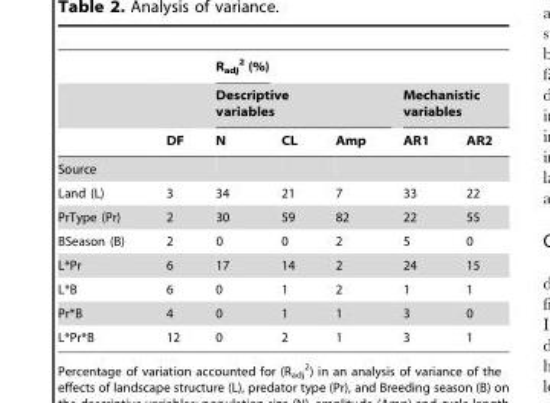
<table><thead><tr><td rowspan="3"></td><td rowspan="3">DF</td><td>R<sub>adj</sub> <sup>2</sup> (%)</td><td></td><td></td><td></td><td></td></tr><tr><td colspan="3">Descriptive variables</td><td colspan="2">Mechanistic variables</td></tr><tr><td>N</td><td>CL</td><td>Amp</td><td>AR1</td><td>AR2</td></tr></thead><tbody><tr><td colspan="7">Source</td></tr><tr><td>Land (L)</td><td>3</td><td>34</td><td>21</td><td>7</td><td>33</td><td>22</td></tr><tr><td>PrType (Pr)</td><td>2</td><td>30</td><td>59</td><td>82</td><td>22</td><td>55</td></tr><tr><td>BSeason (B)</td><td>2</td><td>0</td><td>0</td><td>2</td><td>5</td><td>0</td></tr><tr><td>L*Pr</td><td>6</td><td>17</td><td>14</td><td>2</td><td>24</td><td>15</td></tr><tr><td>L*B</td><td>6</td><td>0</td><td>1</td><td>2</td><td>1</td><td>1</td></tr><tr><td>Pr*B</td><td>4</td><td>0</td><td>1</td><td>1</td><td>3</td><td>0</td></tr><tr><td>L*Pr*B</td><td>12</td><td>0</td><td>2</td><td>1</td><td>3</td><td>1</td></tr></tbody></table>